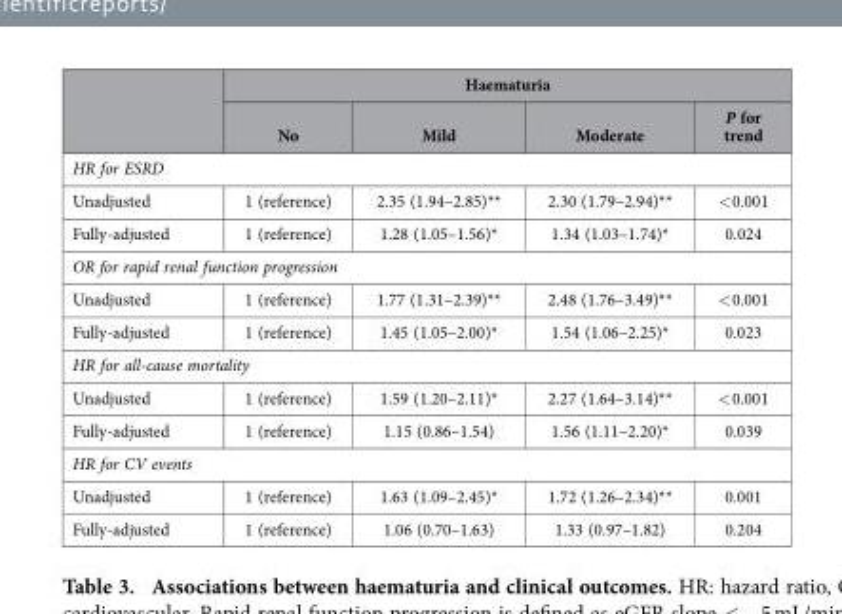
<table><thead><tr><td rowspan="2"></td><td colspan="4">Haematuria</td></tr><tr><td>No</td><td>Mild</td><td>Moderate</td><td>P for trend</td></tr></thead><tbody><tr><td colspan="5">HR for ESRD</td></tr><tr><td>Unadjusted</td><td>1 (reference)</td><td>2.35 (1.94–2.85)**</td><td>2.30 (1.79–2.94)**</td><td>&lt; 0.001</td></tr><tr><td>Fully-adjusted</td><td>1 (reference)</td><td>1.28 (1.05–1.56)*</td><td>1.34 (1.03–1.74)*</td><td>0.024</td></tr><tr><td colspan="5">OR for rapid renal function progression</td></tr><tr><td>Unadjusted</td><td>1 (reference)</td><td>1.77 (1.31–2.39)**</td><td>2.48 (1.76–3.49)**</td><td>&lt; 0.001</td></tr><tr><td>Fully-adjusted</td><td>1 (reference)</td><td>1.45 (1.05–2.00)*</td><td>1.54 (1.06–2.25)*</td><td>0.023</td></tr><tr><td colspan="5">HR for all-cause mortality</td></tr><tr><td>Unadjusted</td><td>1 (reference)</td><td>1.59 (1.20–2.11)*</td><td>2.27 (1.64–3.14)**</td><td>&lt; 0.001</td></tr><tr><td>Fully-adjusted</td><td>1 (reference)</td><td>1.15 (0.86–1.54)</td><td>1.56 (1.11–2.20)*</td><td>0.039</td></tr><tr><td colspan="5">HR for CV events</td></tr><tr><td>Unadjusted</td><td>1 (reference)</td><td>1.63 (1.09–2.45)*</td><td>1.72 (1.26–2.34)**</td><td>0.001</td></tr><tr><td>Fully-adjusted</td><td>1 (reference)</td><td>1.06 (0.70–1.63)</td><td>1.33 (0.97–1.82)</td><td>0.204</td></tr></tbody></table>